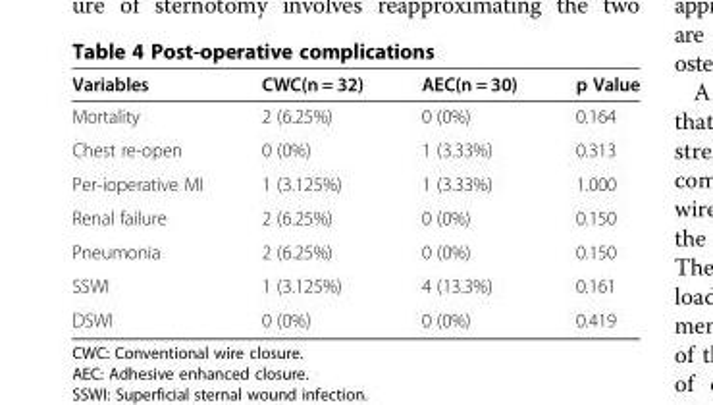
<table><thead><tr><td>Variables</td><td>CWC(n = 32)</td><td>AEC(n = 30)</td><td>p Value</td></tr></thead><tbody><tr><td>Mortality</td><td>2 (6.25%)</td><td>0 (0%)</td><td>0.164</td></tr><tr><td>Chest re-open</td><td>0 (0%)</td><td>1 (3.33%)</td><td>0.313</td></tr><tr><td>Per-ioperative MI</td><td>1 (3.125%)</td><td>1 (3.33%)</td><td>1.000</td></tr><tr><td>Renal failure</td><td>2 (6.25%)</td><td>0 (0%)</td><td>0.150</td></tr><tr><td>Pneumonia</td><td>2 (6.25%)</td><td>0 (0%)</td><td>0.150</td></tr><tr><td>SSWI</td><td>1 (3.125%)</td><td>4 (13.3%)</td><td>0.161</td></tr><tr><td>DSWI</td><td>0 (0%)</td><td>0 (0%)</td><td>0.419</td></tr></tbody></table>